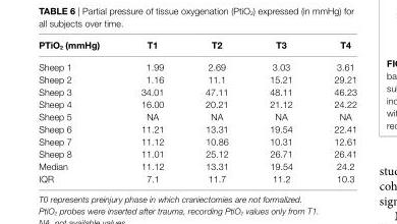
<table><thead><tr><td>PTiO<sub>2</sub> (mmhg)</td><td>T1</td><td>T2</td><td>T3</td><td>T4</td></tr></thead><tbody><tr><td>Sheep 1</td><td>1.99</td><td>2.69</td><td>3.03</td><td>3.61</td></tr><tr><td>Sheep 2</td><td>1.16</td><td>11.1</td><td>15.21</td><td>29.21</td></tr><tr><td>Sheep 3</td><td>34.01</td><td>47.11</td><td>48.11</td><td>46.23</td></tr><tr><td>Sheep 4</td><td>16.00</td><td>20.21</td><td>21.12</td><td>24.22</td></tr><tr><td>Sheep 5</td><td>NA</td><td>NA</td><td>NA</td><td>NA</td></tr><tr><td>Sheep 6</td><td>11.21</td><td>13.31</td><td>19.54</td><td>22.41</td></tr><tr><td>Sheep 7</td><td>11.12</td><td>10.86</td><td>10.31</td><td>12.61</td></tr><tr><td>Sheep 8</td><td>11.01</td><td>25.12</td><td>26.71</td><td>26.41</td></tr><tr><td>Median</td><td>11.12</td><td>13.31</td><td>19.54</td><td>24.2</td></tr><tr><td>IQR</td><td>7.1</td><td>11.7</td><td>11.2</td><td>10.3</td></tr></tbody></table>